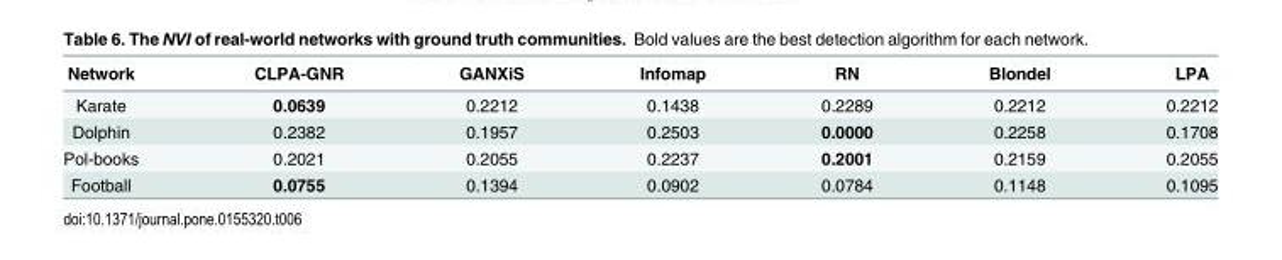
<table><thead><tr><td>Network</td><td>CLPA-GNR</td><td>GANXiS</td><td>Infomap</td><td>RN</td><td>Blondel</td><td>LPA</td></tr></thead><tbody><tr><td>Karate</td><td>0.0639</td><td>0.2212</td><td>0.1438</td><td>0.2289</td><td>0.2212</td><td>0.2212</td></tr><tr><td>Dolphin</td><td>0.2382</td><td>0.1957</td><td>0.2503</td><td>0.0000</td><td>0.2258</td><td>0.1708</td></tr><tr><td>Pol-books</td><td>0.2021</td><td>0.2055</td><td>0.2237</td><td>0.2001</td><td>0.2159</td><td>0.2055</td></tr><tr><td>Football</td><td>0.0755</td><td>0.1394</td><td>0.0902</td><td>0.0784</td><td>0.1148</td><td>0.1095</td></tr></tbody></table>